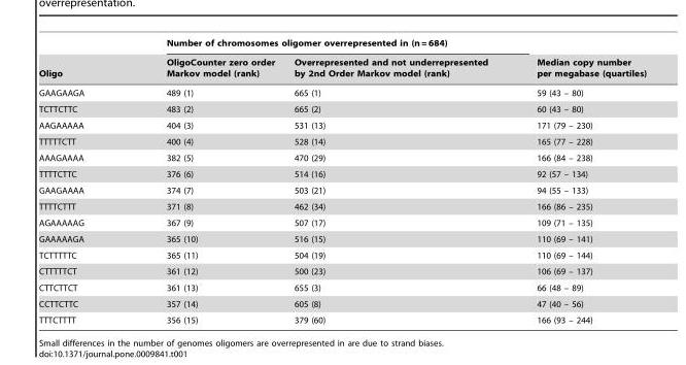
<table><thead><tr><td rowspan="2">Oligo</td><td colspan="2">Number of chromosomes oligomer overrepresented in (n = 684)</td><td rowspan="2">Median copy number per megabase (quartiles)</td></tr><tr><td>OligoCounter zero order Markov model (rank)</td><td>Overrepresented and not underrepresented by 2nd Order Markov model (rank)</td></tr></thead><tbody><tr><td>GAAGAAGA</td><td>489 (1)</td><td>665 (1)</td><td>59 (43 – 80)</td></tr><tr><td>TCTTCTTC</td><td>483 (2)</td><td>665 (2)</td><td>60 (43 – 80)</td></tr><tr><td>AAGAAAAA</td><td>404 (3)</td><td>531 (13)</td><td>171 (79 – 230)</td></tr><tr><td>TTTTTCTT</td><td>400 (4)</td><td>528 (14)</td><td>165 (77 – 228)</td></tr><tr><td>AAAGAAAA</td><td>382 (5)</td><td>470 (29)</td><td>166 (84 – 238)</td></tr><tr><td>TTTTCTTC</td><td>376 (6)</td><td>514 (16)</td><td>92 (57 – 134)</td></tr><tr><td>GAAGAAAA</td><td>374 (7)</td><td>503 (21)</td><td>94 (55 – 133)</td></tr><tr><td>TTTTCTTT</td><td>371 (8)</td><td>462 (34)</td><td>166 (86 – 235)</td></tr><tr><td>AGAAAAAG</td><td>367 (9)</td><td>507 (17)</td><td>109 (71 – 135)</td></tr><tr><td>GAAAAAGA</td><td>365 (10)</td><td>516 (15)</td><td>110 (69 – 141)</td></tr><tr><td>TCTTTTTC</td><td>365 (11)</td><td>504 (19)</td><td>110 (69 – 144)</td></tr><tr><td>CTTTTTCT</td><td>361 (12)</td><td>500 (23)</td><td>106 (69 – 137)</td></tr><tr><td>CTTCTTCT</td><td>361 (13)</td><td>655 (3)</td><td>66 (48 – 89)</td></tr><tr><td>CCTTCTTC</td><td>357 (14)</td><td>605 (8)</td><td>47 (40 – 56)</td></tr><tr><td>TTTCTTTT</td><td>356 (15)</td><td>379 (60)</td><td>166 (93 – 244)</td></tr></tbody></table>